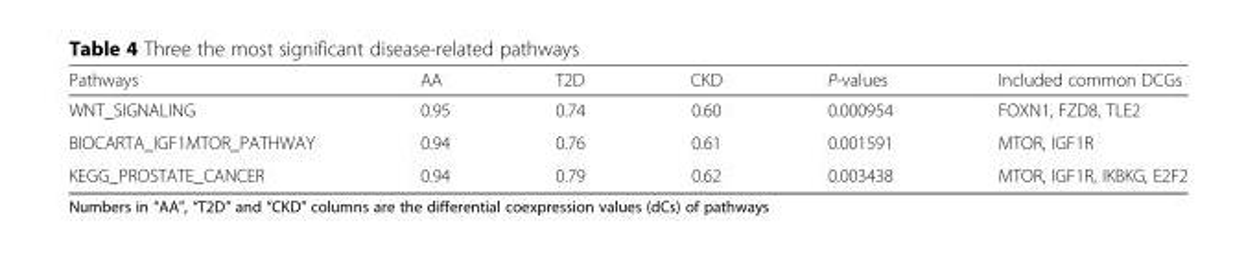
<table><thead><tr><td>Pathways</td><td>AA</td><td>T2D</td><td>CKD</td><td>P-values</td><td>Included common DCGs</td></tr></thead><tbody><tr><td>WNT_SIGNALING</td><td>0.95</td><td>0.74</td><td>0.60</td><td>0.000954</td><td>FOXN1, FZD8, TLE2</td></tr><tr><td>BIOCARTA_IGF1MTOR_PATHWAY</td><td>0.94</td><td>0.76</td><td>0.61</td><td>0.001591</td><td>MTOR, IGF1R</td></tr><tr><td>KEGG_PROSTATE_CANCER</td><td>0.94</td><td>0.79</td><td>0.62</td><td>0.003438</td><td>MTOR, IGF1R, IKBKG, E2F2</td></tr></tbody></table>